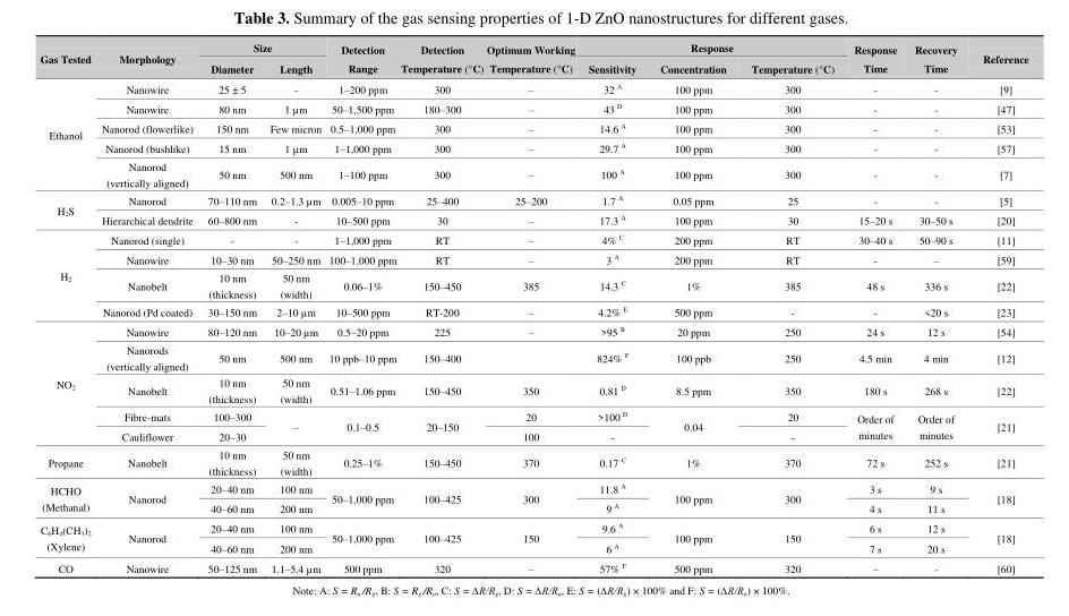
<table><thead><tr><td rowspan="2">Gas Tested</td><td rowspan="2">Morphology</td><td colspan="2">Size</td><td rowspan="2">Detection Range</td><td rowspan="2">Detection Temperature (°C)</td><td rowspan="2">Optimum Working Temperature (°C)</td><td colspan="3">Response</td><td rowspan="2">Response Time</td><td rowspan="2">Recovery Time</td><td rowspan="2">Reference</td></tr><tr><td>Diameter</td><td>Length</td><td>Sensitivity</td><td>Concentration</td><td>Temperature (°C)</td></tr></thead><tbody><tr><td rowspan="5">Ethanol</td><td>Nanowire</td><td>25 ± 5</td><td>-</td><td>1–200 ppm</td><td>300</td><td>–</td><td>32 <sup>A</sup></td><td>100 ppm</td><td>300</td><td>-</td><td>-</td><td>[9]</td></tr><tr><td>Nanowire</td><td>80 nm</td><td>1 µm</td><td>50–1,500 ppm</td><td>180–300</td><td>–</td><td>43 <sup>D</sup></td><td>100 ppm</td><td>300</td><td>-</td><td>-</td><td>[47]</td></tr><tr><td>Nanorod (flowerlike)</td><td>150 nm</td><td>Few micron</td><td>0.5–1,000 ppm</td><td>300</td><td>–</td><td>14.6 <sup>A</sup></td><td>100 ppm</td><td>300</td><td>-</td><td>-</td><td>[53]</td></tr><tr><td>Nanorod (bushlike)</td><td>15 nm</td><td>1 µm</td><td>1–1,000 ppm</td><td>300</td><td>–</td><td>29.7 <sup>A</sup></td><td>100 ppm</td><td>300</td><td>-</td><td>-</td><td>[57]</td></tr><tr><td>Nanorod (vertically aligned)</td><td>50 nm</td><td>500 nm</td><td>1–100 ppm</td><td>300</td><td>–</td><td>100 <sup>A</sup></td><td>100 ppm</td><td>300</td><td>-</td><td>-</td><td>[7]</td></tr><tr><td rowspan="2">H<sub>2</sub>S</td><td>Nanorod</td><td>70–110 nm</td><td>0.2–1.3 µm</td><td>0.005–10 ppm</td><td>25–400</td><td>25–200</td><td>1.7 <sup>A</sup></td><td>0.05 ppm</td><td>25</td><td>-</td><td>-</td><td>[5]</td></tr><tr><td>Hierarchical dendrite</td><td>60–800 nm</td><td>-</td><td>10–500 ppm</td><td>30</td><td>–</td><td>17.3 <sup>A</sup></td><td>100 ppm</td><td>30</td><td>15–20 s</td><td>30–50 s</td><td>[20]</td></tr><tr><td rowspan="4">H<sub>2</sub></td><td>Nanorod (single)</td><td>-</td><td>-</td><td>1–1,000 ppm</td><td>RT</td><td>–</td><td>4% <sup>C</sup></td><td>200 ppm</td><td>RT</td><td>30–40 s</td><td>50–90 s</td><td>[11]</td></tr><tr><td>Nanowire</td><td>10–30 nm</td><td>50–250 nm</td><td>100–1,000 ppm</td><td>RT</td><td>–</td><td>3 <sup>A</sup></td><td>200 ppm</td><td>RT</td><td>-</td><td>–</td><td>[59]</td></tr><tr><td>Nanobelt</td><td>10 nm (thickness)</td><td>50 nm (width)</td><td>0.06–1%</td><td>150–450</td><td>385</td><td>14.3 <sup>C</sup></td><td>1%</td><td>385</td><td>48 s</td><td>336 s</td><td>[22]</td></tr><tr><td>Nanorod (Pd coated)</td><td>30–150 nm</td><td>2–10 µm</td><td>10–500 ppm</td><td>RT-200</td><td>–</td><td>4.2% <sup>E</sup></td><td>500 ppm</td><td>-</td><td>-</td><td>&lt;20 s</td><td>[23]</td></tr><tr><td rowspan="5">NO<sub>2</sub></td><td>Nanowire</td><td>80–120 nm</td><td>10–20 µm</td><td>0.5–20 ppm</td><td>225</td><td>–</td><td>&gt;95 <sup>B</sup></td><td>20 ppm</td><td>250</td><td>24 s</td><td>12 s</td><td>[54]</td></tr><tr><td>Nanorods (vertically aligned)</td><td>50 nm</td><td>500 nm</td><td>10 ppb–10 ppm</td><td>150–400</td><td></td><td>824% <sup>F</sup></td><td>100 ppb</td><td>250</td><td>4.5 min</td><td>4 min</td><td>[12]</td></tr><tr><td>Nanobelt</td><td>10 nm (thickness)</td><td>50 nm (width)</td><td>0.51–1.06 ppm</td><td>150–450</td><td>350</td><td>0.81 <sup>D</sup></td><td>8.5 ppm</td><td>350</td><td>180 s</td><td>268 s</td><td>[22]</td></tr><tr><td>Fibre-mats</td><td>100–300</td><td rowspan="2">–</td><td rowspan="2">0.1–0.5</td><td rowspan="2">20–150</td><td>20</td><td>&gt;100 <sup>D</sup></td><td rowspan="2">0.04</td><td>20</td><td rowspan="2">Order of minutes</td><td rowspan="2">Order of minutes</td><td rowspan="2">[21]</td></tr><tr><td>Cauliflower</td><td>20–30</td><td>100</td><td>-</td><td>-</td></tr><tr><td>Propane</td><td>Nanobelt</td><td>10 nm (thickness)</td><td>50 nm (width)</td><td>0.25–1%</td><td>150–450</td><td>370</td><td>0.17 <sup>C</sup></td><td>1%</td><td>370</td><td>72 s</td><td>252 s</td><td>[21]</td></tr><tr><td rowspan="2">HCHO (Methanal)</td><td rowspan="2">Nanorod</td><td>20–40 nm</td><td>100 nm</td><td rowspan="2">50–1,000 ppm</td><td rowspan="2">100–425</td><td rowspan="2">300</td><td>11.8 <sup>A</sup></td><td rowspan="2">100 ppm</td><td rowspan="2">300</td><td>3 s</td><td>9 s</td><td rowspan="2">[18]</td></tr><tr><td>40–60 nm</td><td>200 nm</td><td>9 <sup>A</sup></td><td>4 s</td><td>11 s</td></tr><tr><td rowspan="2">C<sub>6</sub>H<sub>4</sub>(CH<sub>3</sub>)<sub>2</sub> (Xylene)</td><td rowspan="2">Nanorod</td><td>20–40 nm</td><td>100 nm</td><td rowspan="2">50–1,000 ppm</td><td rowspan="2">100–425</td><td rowspan="2">150</td><td>9.6 <sup>A</sup></td><td rowspan="2">100 ppm</td><td rowspan="2">150</td><td>6 s</td><td>12 s</td><td rowspan="2">[18]</td></tr><tr><td>40–60 nm</td><td>200 nm</td><td>6 <sup>A</sup></td><td>7 s</td><td>20 s</td></tr><tr><td>CO</td><td>Nanowire</td><td>50–125 nm</td><td>1.1–5.4 µm</td><td>500 ppm</td><td>320</td><td>–</td><td>57% <sup>F</sup></td><td>500 ppm</td><td>320</td><td>–</td><td>-</td><td>[60]</td></tr></tbody></table>